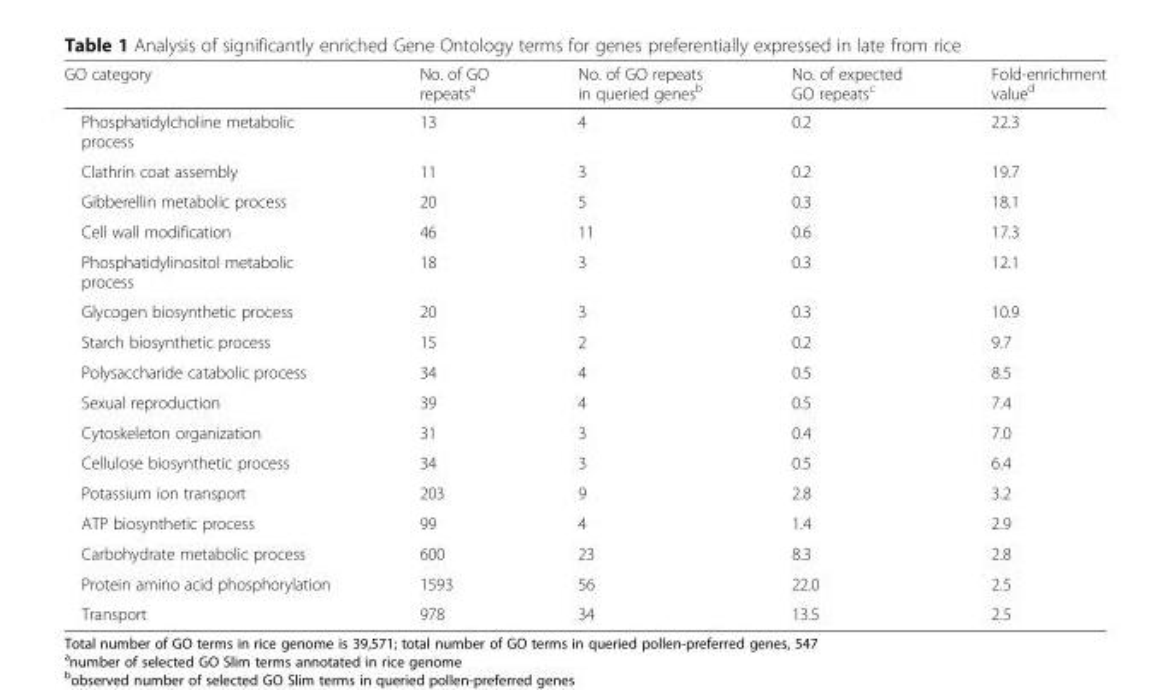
<table><thead><tr><td>GO category</td><td>No. of GO repeats<sup>a</sup></td><td>No. of GO repeats in queried genes<sup>b</sup></td><td>No. of expected GO repeats<sup>c</sup></td><td>Fold-enrichment value<sup>d</sup></td></tr></thead><tbody><tr><td>Phosphatidylcholine metabolic process</td><td>13</td><td>4</td><td>0.2</td><td>22.3</td></tr><tr><td>Clathrin coat assembly</td><td>11</td><td>3</td><td>0.2</td><td>19.7</td></tr><tr><td>Gibberellin metabolic process</td><td>20</td><td>5</td><td>0.3</td><td>18.1</td></tr><tr><td>Cell wall modification</td><td>46</td><td>11</td><td>0.6</td><td>17.3</td></tr><tr><td>Phosphatidylinositol metabolic process</td><td>18</td><td>3</td><td>0.3</td><td>12.1</td></tr><tr><td>Glycogen biosynthetic process</td><td>20</td><td>3</td><td>0.3</td><td>10.9</td></tr><tr><td>Starch biosynthetic process</td><td>15</td><td>2</td><td>0.2</td><td>9.7</td></tr><tr><td>Polysaccharide catabolic process</td><td>34</td><td>4</td><td>0.5</td><td>8.5</td></tr><tr><td>Sexual reproduction</td><td>39</td><td>4</td><td>0.5</td><td>7.4</td></tr><tr><td>Cytoskeleton organization</td><td>31</td><td>3</td><td>0.4</td><td>7.0</td></tr><tr><td>Cellulose biosynthetic process</td><td>34</td><td>3</td><td>0.5</td><td>6.4</td></tr><tr><td>Potassium ion transport</td><td>203</td><td>9</td><td>2.8</td><td>3.2</td></tr><tr><td>ATP biosynthetic process</td><td>99</td><td>4</td><td>1.4</td><td>2.9</td></tr><tr><td>Carbohydrate metabolic process</td><td>600</td><td>23</td><td>8.3</td><td>2.8</td></tr><tr><td>Protein amino acid phosphorylation</td><td>1593</td><td>56</td><td>22.0</td><td>2.5</td></tr><tr><td>Transport</td><td>978</td><td>34</td><td>13.5</td><td>2.5</td></tr></tbody></table>